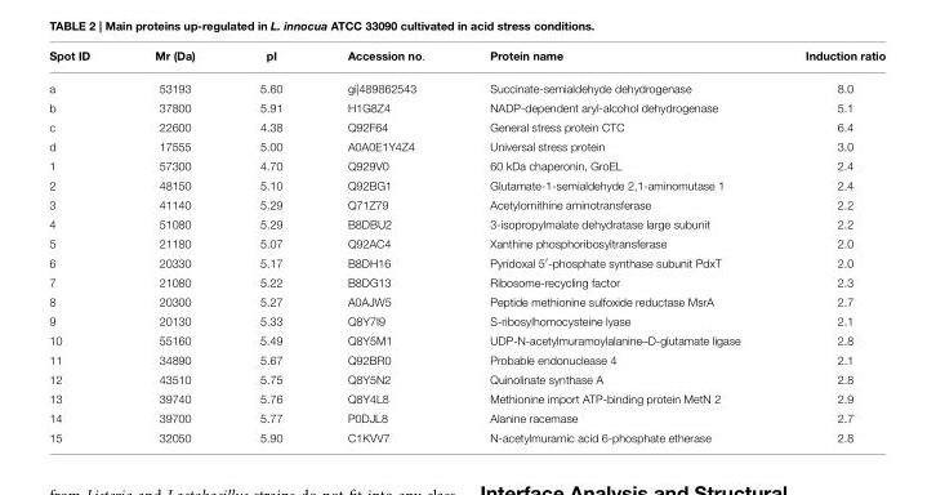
<table><thead><tr><td>Spot ID</td><td>Mr (Da)</td><td>pI</td><td>Accession no.</td><td>Protein name</td><td>Induction ratio</td></tr></thead><tbody><tr><td>a</td><td>53193</td><td>5.60</td><td>gi|489862543</td><td>Succinate-semialdehyde dehydrogenase</td><td>8.0</td></tr><tr><td>b</td><td>37800</td><td>5.91</td><td>H1G8Z4</td><td>NADP-dependent aryl-alcohol dehydrogenase</td><td>5.1</td></tr><tr><td>c</td><td>22600</td><td>4.38</td><td>Q92F64</td><td>General stress protein CTC</td><td>6.4</td></tr><tr><td>d</td><td>17555</td><td>5.00</td><td>A0A0E1Y4Z4</td><td>Universal stress protein</td><td>3.0</td></tr><tr><td>1</td><td>57300</td><td>4.70</td><td>Q929V0</td><td>60 kDa chaperonin, GroEL</td><td>2.4</td></tr><tr><td>2</td><td>48150</td><td>5.10</td><td>Q92BG1</td><td>Glutamate-1-semialdehyde 2,1-aminomutase 1</td><td>2.4</td></tr><tr><td>3</td><td>41140</td><td>5.29</td><td>Q71Z79</td><td>Acetylornithine aminotransferase</td><td>2.2</td></tr><tr><td>4</td><td>51080</td><td>5.29</td><td>B8DBU2</td><td>3-isopropylmalate dehydratase large subunit</td><td>2.2</td></tr><tr><td>5</td><td>21180</td><td>5.07</td><td>Q92AC4</td><td>Xanthine phosphoribosyltransferase</td><td>2.0</td></tr><tr><td>6</td><td>20330</td><td>5.17</td><td>B8DH16</td><td>Pyridoxal 5′-phosphate synthase subunit PdxT</td><td>2.0</td></tr><tr><td>7</td><td>21080</td><td>5.22</td><td>B8DG13</td><td>Ribosome-recycling factor</td><td>2.3</td></tr><tr><td>8</td><td>20300</td><td>5.27</td><td>A0AJW5</td><td>Peptide methionine sulfoxide reductase MsrA</td><td>2.7</td></tr><tr><td>9</td><td>20130</td><td>5.33</td><td>Q8Y7I9</td><td>S-ribosylhomocysteine lyase</td><td>2.1</td></tr><tr><td>10</td><td>55160</td><td>5.49</td><td>Q8Y5M1</td><td>UDP-N-acetylmuramoylalanine–D-glutamate ligase</td><td>2.8</td></tr><tr><td>11</td><td>34890</td><td>5.67</td><td>Q92BR0</td><td>Probable endonuclease 4</td><td>2.1</td></tr><tr><td>12</td><td>43510</td><td>5.75</td><td>Q8Y5N2</td><td>Quinolinate synthase A</td><td>2.8</td></tr><tr><td>13</td><td>39740</td><td>5.76</td><td>Q8Y4L8</td><td>Methionine import ATP-binding protein MetN 2</td><td>2.9</td></tr><tr><td>14</td><td>39700</td><td>5.77</td><td>P0DJL8</td><td>Alanine racemase</td><td>2.7</td></tr><tr><td>15</td><td>32050</td><td>5.90</td><td>C1KVV7</td><td>N-acetylmuramic acid 6-phosphate etherase</td><td>2.8</td></tr></tbody></table>